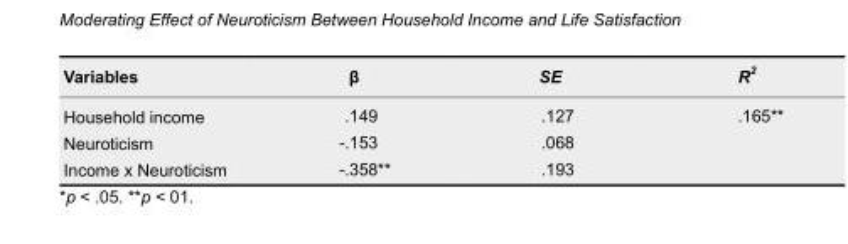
<table><thead><tr><td>Variables</td><td>β</td><td>SE</td><td>R <sup>2</sup></td></tr></thead><tbody><tr><td>Household income</td><td>.149</td><td>.127</td><td rowspan="3">.165**</td></tr><tr><td>Neuroticism</td><td>-.153</td><td>.068</td></tr><tr><td>Income x Neuroticism</td><td>-.358**</td><td>.193</td></tr></tbody></table>